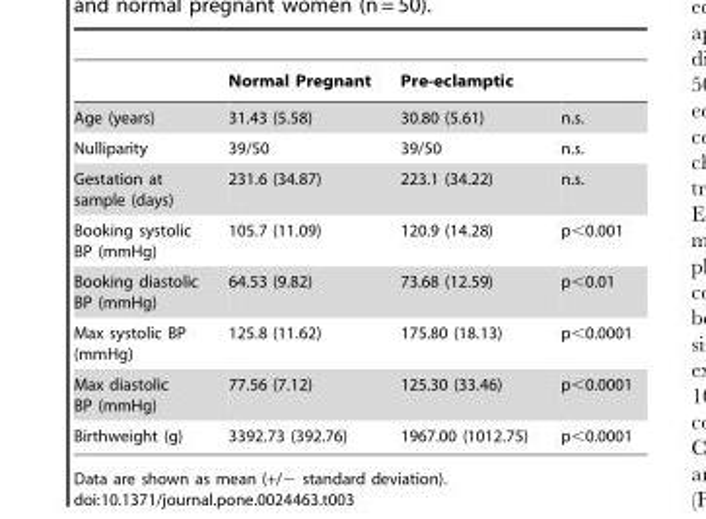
<table><thead><tr><td></td><td>Normal Pregnant</td><td>Pre-eclamptic</td><td></td></tr></thead><tbody><tr><td>Age (years)</td><td>31.43 (5.58)</td><td>30.80 (5.61)</td><td>n.s.</td></tr><tr><td>Nulliparity</td><td>39/50</td><td>39/50</td><td>n.s.</td></tr><tr><td>Gestation at sample (days)</td><td>231.6 (34.87)</td><td>223.1 (34.22)</td><td>n.s.</td></tr><tr><td>Booking systolic BP (mmHg)</td><td>105.7 (11.09)</td><td>120.9 (14.28)</td><td>p&lt;0.001</td></tr><tr><td>Booking diastolic BP (mmHg)</td><td>64.53 (9.82)</td><td>73.68 (12.59)</td><td>p&lt;0.01</td></tr><tr><td>Max systolic BP (mmHg)</td><td>125.8 (11.62)</td><td>175.80 (18.13)</td><td>p&lt;0.0001</td></tr><tr><td>Max diastolic BP (mmHg)</td><td>77.56 (7.12)</td><td>125.30 (33.46)</td><td>p&lt;0.0001</td></tr><tr><td>Birthweight (g)</td><td>3392.73 (392.76)</td><td>1967.00 (1012.75)</td><td>p&lt;0.0001</td></tr></tbody></table>